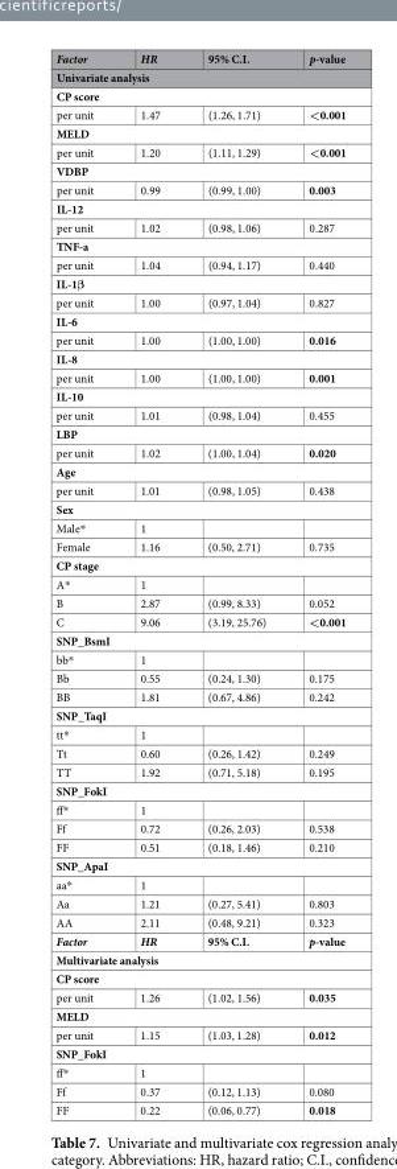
<table><thead><tr><td>Factor</td><td>HR</td><td>95% C.I.</td><td>p-value</td></tr><tr><td colspan="4">Univariate analysis</td></tr></thead><tbody><tr><td colspan="4">CP score</td></tr><tr><td>per unit</td><td>1.47</td><td>(1.26, 1.71)</td><td>&lt;0.001</td></tr><tr><td colspan="4">MELD</td></tr><tr><td>per unit</td><td>1.20</td><td>(1.11, 1.29)</td><td>&lt;0.001</td></tr><tr><td colspan="4">VDBP</td></tr><tr><td>per unit</td><td>0.99</td><td>(0.99, 1.00)</td><td>0.003</td></tr><tr><td colspan="4">IL-12</td></tr><tr><td>per unit</td><td>1.02</td><td>(0.98, 1.06)</td><td>0.287</td></tr><tr><td colspan="4">TNF-a</td></tr><tr><td>per unit</td><td>1.04</td><td>(0.94, 1.17)</td><td>0.440</td></tr><tr><td colspan="4">IL-1β</td></tr><tr><td>per unit</td><td>1.00</td><td>(0.97, 1.04)</td><td>0.827</td></tr><tr><td colspan="4">IL-6</td></tr><tr><td>per unit</td><td>1.00</td><td>(1.00, 1.00)</td><td>0.016</td></tr><tr><td colspan="4">IL-8</td></tr><tr><td>per unit</td><td>1.00</td><td>(1.00, 1.00)</td><td>0.001</td></tr><tr><td colspan="4">IL-10</td></tr><tr><td>per unit</td><td>1.01</td><td>(0.98, 1.04)</td><td>0.455</td></tr><tr><td colspan="4">LBP</td></tr><tr><td>per unit</td><td>1.02</td><td>(1.00, 1.04)</td><td>0.020</td></tr><tr><td colspan="4">Age</td></tr><tr><td>per unit</td><td>1.01</td><td>(0.98, 1.05)</td><td>0.438</td></tr><tr><td colspan="4">Sex</td></tr><tr><td>Male*</td><td>1</td><td></td><td></td></tr><tr><td>Female</td><td>1.16</td><td>(0.50, 2.71)</td><td>0.735</td></tr><tr><td colspan="4">CP stage</td></tr><tr><td>A*</td><td>1</td><td></td><td></td></tr><tr><td>B</td><td>2.87</td><td>(0.99, 8.33)</td><td>0.052</td></tr><tr><td>C</td><td>9.06</td><td>(3.19, 25.76)</td><td>&lt;0.001</td></tr><tr><td colspan="4">SNP_BsmI</td></tr><tr><td>bb*</td><td>1</td><td></td><td></td></tr><tr><td>Bb</td><td>0.55</td><td>(0.24, 1.30)</td><td>0.175</td></tr><tr><td>BB</td><td>1.81</td><td>(0.67, 4.86)</td><td>0.242</td></tr><tr><td colspan="4">SNP_TaqI</td></tr><tr><td>tt*</td><td>1</td><td></td><td></td></tr><tr><td>Tt</td><td>0.60</td><td>(0.26, 1.42)</td><td>0.249</td></tr><tr><td>TT</td><td>1.92</td><td>(0.71, 5.18)</td><td>0.195</td></tr><tr><td colspan="4">SNP_FokI</td></tr><tr><td>ff*</td><td>1</td><td></td><td></td></tr><tr><td>Ff</td><td>0.72</td><td>(0.26, 2.03)</td><td>0.538</td></tr><tr><td>FF</td><td>0.51</td><td>(0.18, 1.46)</td><td>0.210</td></tr><tr><td colspan="4">SNP_ApaI</td></tr><tr><td>aa*</td><td>1</td><td></td><td></td></tr><tr><td>Aa</td><td>1.21</td><td>(0.27, 5.41)</td><td>0.803</td></tr><tr><td>AA</td><td>2.11</td><td>(0.48, 9.21)</td><td>0.323</td></tr><tr><td>Factor</td><td>HR</td><td>95% C.I.</td><td>p-value</td></tr><tr><td colspan="4">Multivariate analysis</td></tr><tr><td colspan="4">CP score</td></tr><tr><td>per unit</td><td>1.26</td><td>(1.02, 1.56)</td><td>0.035</td></tr><tr><td colspan="4">MELD</td></tr><tr><td>per unit</td><td>1.15</td><td>(1.03, 1.28)</td><td>0.012</td></tr><tr><td colspan="4">SNP_FokI</td></tr><tr><td>ff*</td><td>1</td><td></td><td></td></tr><tr><td>Ff</td><td>0.37</td><td>(0.12, 1.13)</td><td>0.080</td></tr><tr><td>FF</td><td>0.22</td><td>(0.06, 0.77)</td><td>0.018</td></tr></tbody></table>